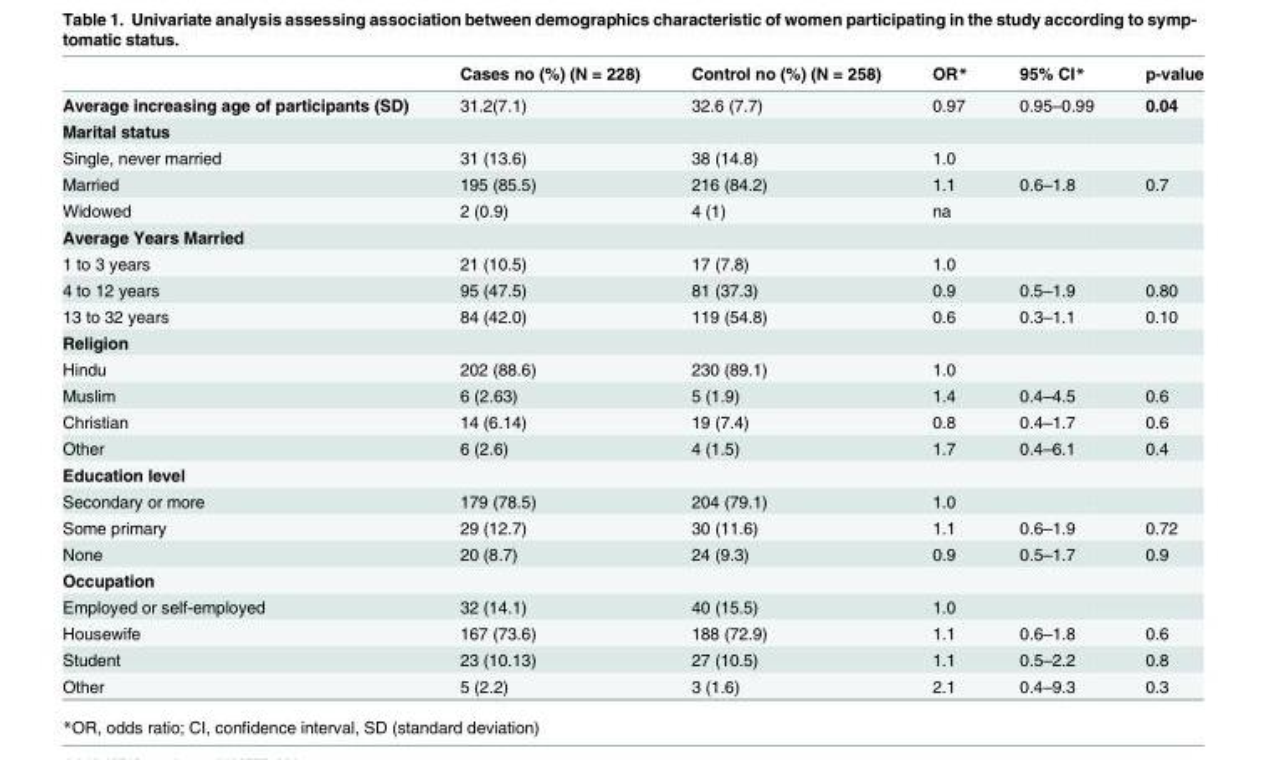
<table><thead><tr><td></td><td>Cases no (%) (N = 228)</td><td>Control no (%) (N = 258)</td><td>OR*</td><td>95% CI*</td><td>p-value</td></tr></thead><tbody><tr><td>Average increasing age of participants (SD)</td><td>31.2(7.1)</td><td>32.6 (7.7)</td><td>0.97</td><td>0.95–0.99</td><td>0.04</td></tr><tr><td colspan="6">Marital status</td></tr><tr><td>Single, never married</td><td>31 (13.6)</td><td>38 (14.8)</td><td>1.0</td><td></td><td></td></tr><tr><td>Married</td><td>195 (85.5)</td><td>216 (84.2)</td><td>1.1</td><td>0.6–1.8</td><td>0.7</td></tr><tr><td>Widowed</td><td>2 (0.9)</td><td>4 (1)</td><td>na</td><td></td><td></td></tr><tr><td colspan="6">Average Years Married</td></tr><tr><td>1 to 3 years</td><td>21 (10.5)</td><td>17 (7.8)</td><td>1.0</td><td></td><td></td></tr><tr><td>4 to 12 years</td><td>95 (47.5)</td><td>81 (37.3)</td><td>0.9</td><td>0.5–1.9</td><td>0.80</td></tr><tr><td>13 to 32 years</td><td>84 (42.0)</td><td>119 (54.8)</td><td>0.6</td><td>0.3–1.1</td><td>0.10</td></tr><tr><td colspan="6">Religion</td></tr><tr><td>Hindu</td><td>202 (88.6)</td><td>230 (89.1)</td><td>1.0</td><td></td><td></td></tr><tr><td>Muslim</td><td>6 (2.63)</td><td>5 (1.9)</td><td>1.4</td><td>0.4–4.5</td><td>0.6</td></tr><tr><td>Christian</td><td>14 (6.14)</td><td>19 (7.4)</td><td>0.8</td><td>0.4–1.7</td><td>0.6</td></tr><tr><td>Other</td><td>6 (2.6)</td><td>4 (1.5)</td><td>1.7</td><td>0.4–6.1</td><td>0.4</td></tr><tr><td colspan="6">Education level</td></tr><tr><td>Secondary or more</td><td>179 (78.5)</td><td>204 (79.1)</td><td>1.0</td><td></td><td></td></tr><tr><td>Some primary</td><td>29 (12.7)</td><td>30 (11.6)</td><td>1.1</td><td>0.6–1.9</td><td>0.72</td></tr><tr><td>None</td><td>20 (8.7)</td><td>24 (9.3)</td><td>0.9</td><td>0.5–1.7</td><td>0.9</td></tr><tr><td colspan="6">Occupation</td></tr><tr><td>Employed or self-employed</td><td>32 (14.1)</td><td>40 (15.5)</td><td>1.0</td><td></td><td></td></tr><tr><td>Housewife</td><td>167 (73.6)</td><td>188 (72.9)</td><td>1.1</td><td>0.6–1.8</td><td>0.6</td></tr><tr><td>Student</td><td>23 (10.13)</td><td>27 (10.5)</td><td>1.1</td><td>0.5–2.2</td><td>0.8</td></tr><tr><td>Other</td><td>5 (2.2)</td><td>3 (1.6)</td><td>2.1</td><td>0.4–9.3</td><td>0.3</td></tr></tbody></table>